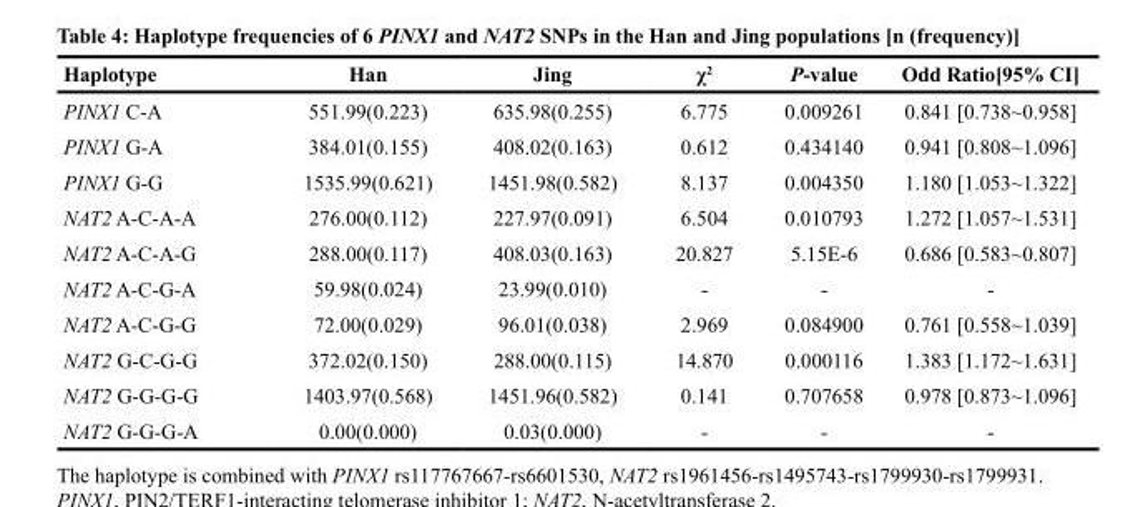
<table><thead><tr><td>Haplotype</td><td>Han</td><td>Jing</td><td>χ<sup>2</sup></td><td>P-value</td><td>Odd Ratio[95% CI]</td></tr></thead><tbody><tr><td>PINX1 C-A</td><td>551.99(0.223)</td><td>635.98(0.255)</td><td>6.775</td><td>0.009261</td><td>0.841 [0.738~0.958]</td></tr><tr><td>PINX1 G-A</td><td>384.01(0.155)</td><td>408.02(0.163)</td><td>0.612</td><td>0.434140</td><td>0.941 [0.808~1.096]</td></tr><tr><td>PINX1 G-G</td><td>1535.99(0.621)</td><td>1451.98(0.582)</td><td>8.137</td><td>0.004350</td><td>1.180 [1.053~1.322]</td></tr><tr><td>NAT2 A-C-A-A</td><td>276.00(0.112)</td><td>227.97(0.091)</td><td>6.504</td><td>0.010793</td><td>1.272 [1.057~1.531]</td></tr><tr><td>NAT2 A-C-A-G</td><td>288.00(0.117)</td><td>408.03(0.163)</td><td>20.827</td><td>5.15E-6</td><td>0.686 [0.583~0.807]</td></tr><tr><td>NAT2 A-C-G-A</td><td>59.98(0.024)</td><td>23.99(0.010)</td><td>-</td><td>-</td><td>-</td></tr><tr><td>NAT2 A-C-G-G</td><td>72.00(0.029)</td><td>96.01(0.038)</td><td>2.969</td><td>0.084900</td><td>0.761 [0.558~1.039]</td></tr><tr><td>NAT2 G-C-G-G</td><td>372.02(0.150)</td><td>288.00(0.115)</td><td>14.870</td><td>0.000116</td><td>1.383 [1.172~1.631]</td></tr><tr><td>NAT2 G-G-G-G</td><td>1403.97(0.568)</td><td>1451.96(0.582)</td><td>0.141</td><td>0.707658</td><td>0.978 [0.873~1.096]</td></tr><tr><td>NAT2 G-G-G-A</td><td>0.00(0.000)</td><td>0.03(0.000)</td><td>-</td><td>-</td><td>-</td></tr></tbody></table>